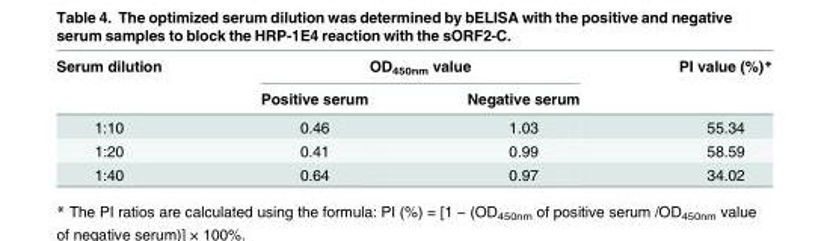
<table><thead><tr><td rowspan="2">Serum dilution</td><td colspan="2">OD<sub>450nm</sub> value</td><td rowspan="2">PI value (%)*</td></tr><tr><td>Positive serum</td><td>Negative serum</td></tr></thead><tbody><tr><td>1:10</td><td>0.46</td><td>1.03</td><td>55.34</td></tr><tr><td>1:20</td><td>0.41</td><td>0.99</td><td>58.59</td></tr><tr><td>1:40</td><td>0.64</td><td>0.97</td><td>34.02</td></tr></tbody></table>